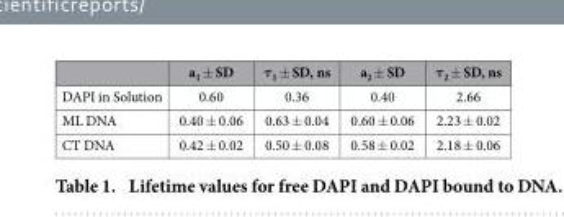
<table><thead><tr><td></td><td>a<sub>1</sub> ± SD</td><td>τ<sub>1</sub> ± SD, ns</td><td>a<sub>2</sub> ± SD</td><td>τ<sub>2</sub> ± SD, ns</td></tr></thead><tbody><tr><td>DAPI in Solution</td><td>0.60</td><td>0.36</td><td>0.40</td><td>2.66</td></tr><tr><td>ML DNA</td><td>0.40 ± 0.06</td><td>0.63 ± 0.04</td><td>0.60 ± 0.06</td><td>2.23 ± 0.02</td></tr><tr><td>CT DNA</td><td>0.42 ± 0.02</td><td>0.50 ± 0.08</td><td>0.58 ± 0.02</td><td>2.18 ± 0.06</td></tr></tbody></table>